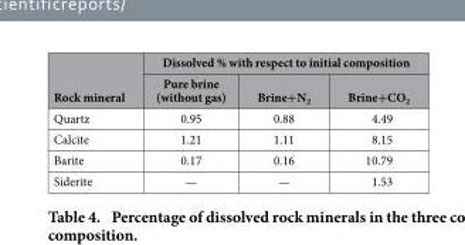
<table><thead><tr><td rowspan="2">Rock mineral</td><td colspan="3">Dissolved % with respect to initial composition</td></tr><tr><td>Pure brine (without gas)</td><td>Brine+N<sub>2</sub></td><td>Brine+CO<sub>2</sub></td></tr></thead><tbody><tr><td>Quartz</td><td>0.95</td><td>0.88</td><td>4.49</td></tr><tr><td>Calcite</td><td>1.21</td><td>1.11</td><td>8.15</td></tr><tr><td>Barite</td><td>0.17</td><td>0.16</td><td>10.79</td></tr><tr><td>Siderite</td><td>—</td><td>—</td><td>1.53</td></tr></tbody></table>